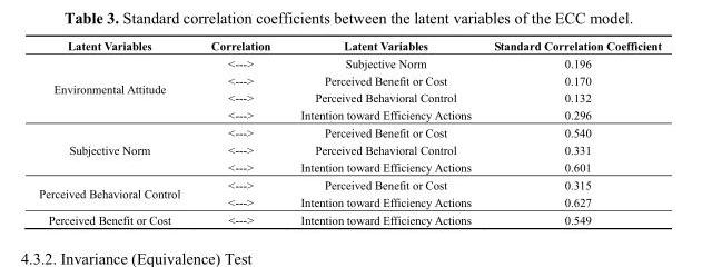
<table><thead><tr><td>Latent Variables</td><td>Correlation</td><td>Latent Variables</td><td>Standard Correlation Coefficient</td></tr></thead><tbody><tr><td rowspan="4">Environmental Attitude</td><td>&lt;---&gt;</td><td>Subjective Norm</td><td>0.196</td></tr><tr><td>&lt;---&gt;</td><td>Perceived Benefit or Cost</td><td>0.170</td></tr><tr><td>&lt;---&gt;</td><td>Perceived Behavioral Control</td><td>0.132</td></tr><tr><td>&lt;---&gt;</td><td>Intention toward Efficiency Actions</td><td>0.296</td></tr><tr><td rowspan="3">Subjective Norm</td><td>&lt;---&gt;</td><td>Perceived Benefit or Cost</td><td>0.540</td></tr><tr><td>&lt;---&gt;</td><td>Perceived Behavioral Control</td><td>0.331</td></tr><tr><td>&lt;---&gt;</td><td>Intention toward Efficiency Actions</td><td>0.601</td></tr><tr><td rowspan="2">Perceived Behavioral Control</td><td>&lt;---&gt;</td><td>Perceived Benefit or Cost</td><td>0.315</td></tr><tr><td>&lt;---&gt;</td><td>Intention toward Efficiency Actions</td><td>0.627</td></tr><tr><td>Perceived Benefit or Cost</td><td>&lt;---&gt;</td><td>Intention toward Efficiency Actions</td><td>0.549</td></tr></tbody></table>